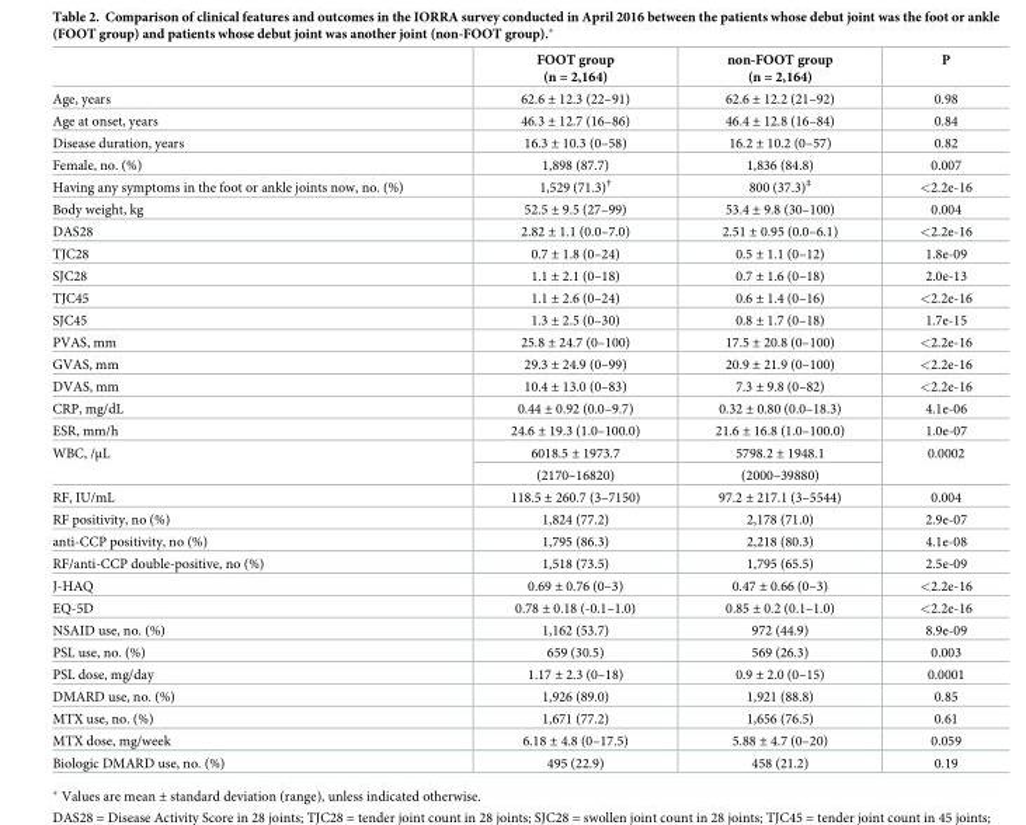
<table><thead><tr><td></td><td>FOOT group (n = 2,164)</td><td>non-FOOT group (n = 2,164)</td><td>P</td></tr></thead><tbody><tr><td>Age, years</td><td>62.6 ± 12.3 (22–91)</td><td>62.6 ± 12.2 (21–92)</td><td>0.98</td></tr><tr><td>Age at onset, years</td><td>46.3 ± 12.7 (16–86)</td><td>46.4 ± 12.8 (16–84)</td><td>0.84</td></tr><tr><td>Disease duration, years</td><td>16.3 ± 10.3 (0–58)</td><td>16.2 ± 10.2 (0–57)</td><td>0.82</td></tr><tr><td>Female, no. (%)</td><td>1,898 (87.7)</td><td>1,836 (84.8)</td><td>0.007</td></tr><tr><td>Having any symptoms in the foot or ankle joints now, no. (%)</td><td>1,529 (71.3)<sup>†</sup></td><td>800 (37.3)<sup>‡</sup></td><td>&lt;2.2e-16</td></tr><tr><td>Body weight, kg</td><td>52.5 ± 9.5 (27–99)</td><td>53.4 ± 9.8 (30–100)</td><td>0.004</td></tr><tr><td>DAS28</td><td>2.82 ± 1.1 (0.0–7.0)</td><td>2.51 ± 0.95 (0.0–6.1)</td><td>&lt;2.2e-16</td></tr><tr><td>TJC28</td><td>0.7 ± 1.8 (0–24)</td><td>0.5 ± 1.1 (0–12)</td><td>1.8e-09</td></tr><tr><td>SJC28</td><td>1.1 ± 2.1 (0–18)</td><td>0.7 ± 1.6 (0–18)</td><td>2.0e-13</td></tr><tr><td>TJC45</td><td>1.1 ± 2.6 (0–24)</td><td>0.6 ± 1.4 (0–16)</td><td>&lt;2.2e-16</td></tr><tr><td>SJC45</td><td>1.3 ± 2.5 (0–30)</td><td>0.8 ± 1.7 (0–18)</td><td>1.7e-15</td></tr><tr><td>PVAS, mm</td><td>25.8 ± 24.7 (0–100)</td><td>17.5 ± 20.8 (0–100)</td><td>&lt;2.2e-16</td></tr><tr><td>GVAS, mm</td><td>29.3 ± 24.9 (0–99)</td><td>20.9 ± 21.9 (0–100)</td><td>&lt;2.2e-16</td></tr><tr><td>DVAS, mm</td><td>10.4 ± 13.0 (0–83)</td><td>7.3 ± 9.8 (0–82)</td><td>&lt;2.2e-16</td></tr><tr><td>CRP, mg/dL</td><td>0.44 ± 0.92 (0.0–9.7)</td><td>0.32 ± 0.80 (0.0–18.3)</td><td>4.1e-06</td></tr><tr><td>ESR, mm/h</td><td>24.6 ± 19.3 (1.0–100.0)</td><td>21.6 ± 16.8 (1.0–100.0)</td><td>1.0e-07</td></tr><tr><td rowspan="2">WBC, /μL</td><td>6018.5 ± 1973.7</td><td>5798.2 ± 1948.1</td><td rowspan="2">0.0002</td></tr><tr><td>(2170–16820)</td><td>(2000–39880)</td></tr><tr><td>RF, IU/mL</td><td>118.5 ± 260.7 (3–7150)</td><td>97.2 ± 217.1 (3–5544)</td><td>0.004</td></tr><tr><td>RF positivity, no (%)</td><td>1,824 (77.2)</td><td>2,178 (71.0)</td><td>2.9e-07</td></tr><tr><td>anti-CCP positivity, no (%)</td><td>1,795 (86.3)</td><td>2,218 (80.3)</td><td>4.1e-08</td></tr><tr><td>RF/anti-CCP double-positive, no (%)</td><td>1,518 (73.5)</td><td>1,795 (65.5)</td><td>2.5e-09</td></tr><tr><td>J-HAQ</td><td>0.69 ± 0.76 (0–3)</td><td>0.47 ± 0.66 (0–3)</td><td>&lt;2.2e-16</td></tr><tr><td>EQ-5D</td><td>0.78 ± 0.18 (-0.1–1.0)</td><td>0.85 ± 0.2 (0.1–1.0)</td><td>&lt;2.2e-16</td></tr><tr><td>NSAID use, no. (%)</td><td>1,162 (53.7)</td><td>972 (44.9)</td><td>8.9e-09</td></tr><tr><td>PSL use, no. (%)</td><td>659 (30.5)</td><td>569 (26.3)</td><td>0.003</td></tr><tr><td>PSL dose, mg/day</td><td>1.17 ± 2.3 (0–18)</td><td>0.9 ± 2.0 (0–15)</td><td>0.0001</td></tr><tr><td>DMARD use, no. (%)</td><td>1,926 (89.0)</td><td>1,921 (88.8)</td><td>0.85</td></tr><tr><td>MTX use, no. (%)</td><td>1,671 (77.2)</td><td>1,656 (76.5)</td><td>0.61</td></tr><tr><td>MTX dose, mg/week</td><td>6.18 ± 4.8 (0–17.5)</td><td>5.88 ± 4.7 (0–20)</td><td>0.059</td></tr><tr><td>Biologic DMARD use, no. (%)</td><td>495 (22.9)</td><td>458 (21.2)</td><td>0.19</td></tr></tbody></table>